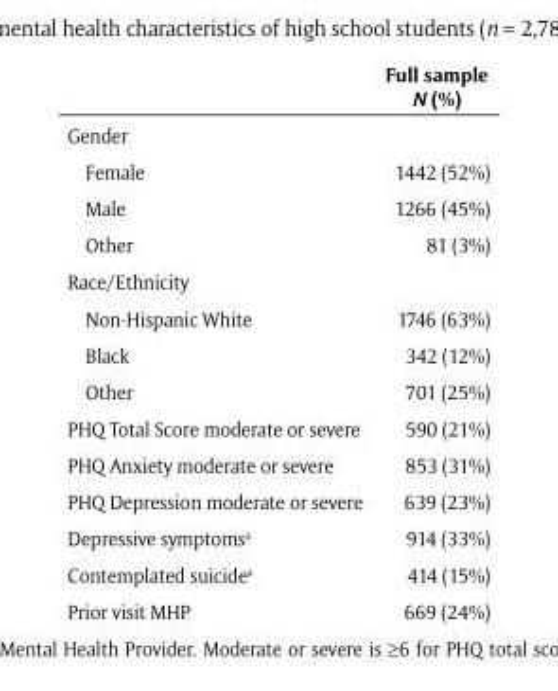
<table><thead><tr><td></td><td>Full sample N (%)</td></tr></thead><tbody><tr><td colspan="2">Gender</td></tr><tr><td>Female</td><td>1442 (52%)</td></tr><tr><td>Male</td><td>1266 (45%)</td></tr><tr><td>Other</td><td>81 (3%)</td></tr><tr><td colspan="2">Race/Ethnicity</td></tr><tr><td>Non-Hispanic White</td><td>1746 (63%)</td></tr><tr><td>Black</td><td>342 (12%)</td></tr><tr><td>Other</td><td>701 (25%)</td></tr><tr><td>PHQ Total Score moderate or severe</td><td>590 (21%)</td></tr><tr><td>PHQ Anxiety moderate or severe</td><td>853 (31%)</td></tr><tr><td>PHQ Depression moderate or severe</td><td>639 (23%)</td></tr><tr><td>Depressive symptoms<sup>a</sup></td><td>914 (33%)</td></tr><tr><td>Contemplated suicide<sup>a</sup></td><td>414 (15%)</td></tr><tr><td>Prior visit MHP</td><td>669 (24%)</td></tr></tbody></table>